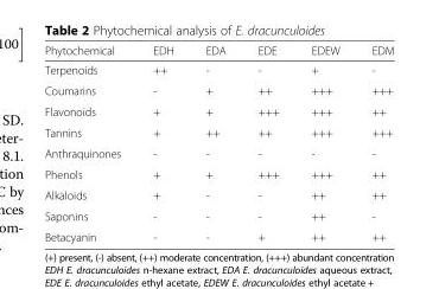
<table><thead><tr><td>Phytochemical</td><td>EDH</td><td>EDA</td><td>EDE</td><td>EDEW</td><td>EDM</td></tr></thead><tbody><tr><td>Terpenoids</td><td>++</td><td>-</td><td>-</td><td>+</td><td>-</td></tr><tr><td>Coumarins</td><td>-</td><td>+</td><td>++</td><td>+++</td><td>+++</td></tr><tr><td>Flavonoids</td><td>+</td><td>+</td><td>+++</td><td>+++</td><td>++</td></tr><tr><td>Tannins</td><td>+</td><td>++</td><td>++</td><td>+++</td><td>+++</td></tr><tr><td>Anthraquinones</td><td>-</td><td>-</td><td>-</td><td>-</td><td>-</td></tr><tr><td>Phenols</td><td>+</td><td>+</td><td>+++</td><td>+++</td><td>++</td></tr><tr><td>Alkaloids</td><td>+</td><td>-</td><td>-</td><td>++</td><td>++</td></tr><tr><td>Saponins</td><td>-</td><td>-</td><td>-</td><td>++</td><td>-</td></tr><tr><td>Betacyanin</td><td>-</td><td>-</td><td>+</td><td>++</td><td>++</td></tr></tbody></table>